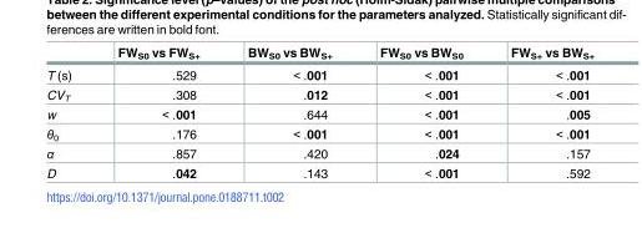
<table><thead><tr><td></td><td>FW<sub>S0</sub> vs FW<sub>S+</sub></td><td>BW<sub>S0</sub> vs BW<sub>S+</sub></td><td>FW<sub>S0</sub> vs BW<sub>S0</sub></td><td>FW<sub>S+</sub> vs BW<sub>S+</sub></td></tr></thead><tbody><tr><td>T (s)</td><td>.529</td><td>&lt; .001</td><td>&lt; .001</td><td>&lt; .001</td></tr><tr><td>CV<sub>T</sub></td><td>.308</td><td>.012</td><td>&lt; .001</td><td>&lt; .001</td></tr><tr><td>w</td><td>&lt; .001</td><td>.644</td><td>&lt; .001</td><td>.005</td></tr><tr><td>θ<sub>0</sub></td><td>.176</td><td>&lt; .001</td><td>&lt; .001</td><td>&lt; .001</td></tr><tr><td>α</td><td>.857</td><td>.420</td><td>.024</td><td>.157</td></tr><tr><td>D</td><td>.042</td><td>.143</td><td>&lt; .001</td><td>.592</td></tr></tbody></table>